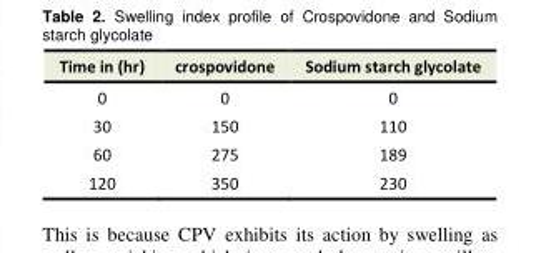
<table><tbody><tr><td>Time in (hr)</td><td>crospovidone</td><td>Sodium starch glycolate</td></tr><tr><td>0</td><td>0</td><td>0</td></tr><tr><td>30</td><td>150</td><td>110</td></tr><tr><td>60</td><td>275</td><td>189</td></tr><tr><td>120</td><td>350</td><td>230</td></tr></tbody></table>